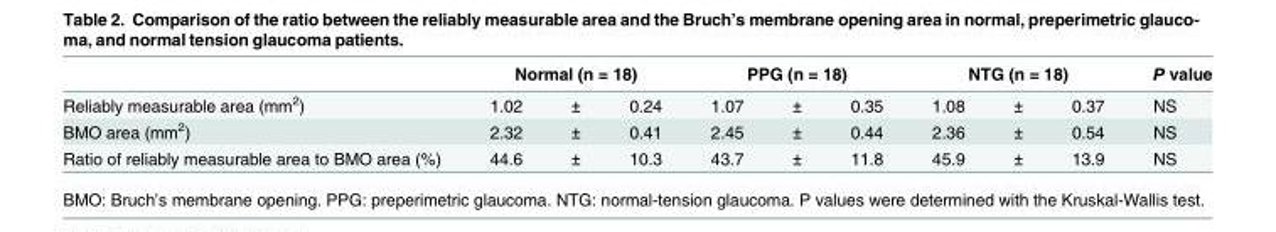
<table><thead><tr><td></td><td>Normal (n = 18)</td><td>PPG (n = 18)</td><td>NTG (n = 18)</td><td>P value</td></tr></thead><tbody><tr><td>Reliably measurable area (mm<sup>2</sup>)</td><td>1.02 ± 0.24</td><td>1.07 ± 0.35</td><td>1.08 ± 0.37</td><td>NS</td></tr><tr><td>BMO area (mm<sup>2</sup>)</td><td>2.32 ± 0.41</td><td>2.45 ± 0.44</td><td>2.36 ± 0.54</td><td>NS</td></tr><tr><td>Ratio of reliably measurable area to BMO area (%)</td><td>44.6 ± 10.3</td><td>43.7 ± 11.8</td><td>45.9 ± 13.9</td><td>NS</td></tr></tbody></table>